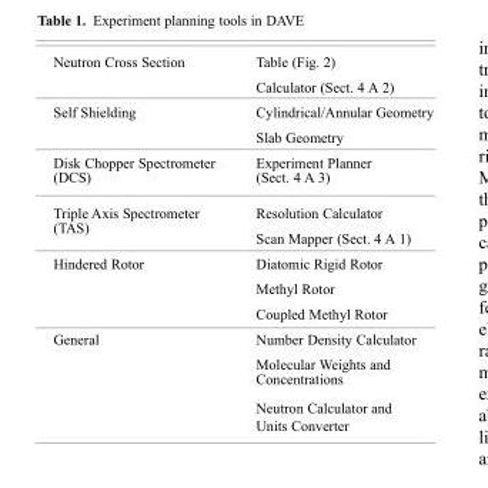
<table><tbody><tr><td>Neutron Cross Section</td><td>Table (Fig. 2) Calculator (Sect. 4 A 2)</td></tr><tr><td>Self Shielding</td><td>Cylindrical/Annular Geometry Slab Geometry</td></tr><tr><td>Disk Chopper Spectrometer (DCS)</td><td>Experiment Planner (Sect. 4 A 3)</td></tr><tr><td>Triple Axis Spectrometer (TAS)</td><td>Resolution Calculator Scan Mapper (Sect. 4 A 1)</td></tr><tr><td>Hindered Rotor</td><td>Diatomic Rigid Rotor Methyl Rotor Coupled Methyl Rotor</td></tr><tr><td>General</td><td>Number Density Calculator Molecular Weights and Concentrations Neutron Calculator and Units Converter</td></tr></tbody></table>